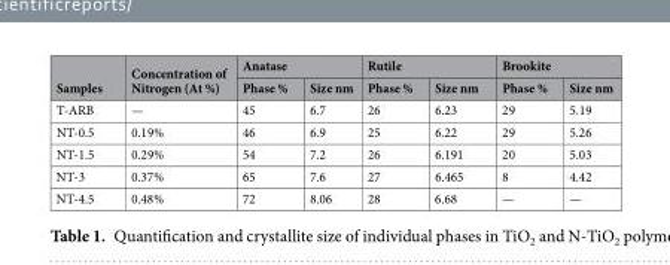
<table><thead><tr><td rowspan="2">Samples</td><td rowspan="2">Concentration of Nitrogen (At %)</td><td colspan="2">Anatase</td><td colspan="2">Rutile</td><td colspan="2">Brookite</td></tr><tr><td>Phase %</td><td>Size nm</td><td>Phase %</td><td>Size nm</td><td>Phase %</td><td>Size nm</td></tr></thead><tbody><tr><td>T-ARB</td><td>—</td><td>45</td><td>6.7</td><td>26</td><td>6.23</td><td>29</td><td>5.19</td></tr><tr><td>NT-0.5</td><td>0.19%</td><td>46</td><td>6.9</td><td>25</td><td>6.22</td><td>29</td><td>5.26</td></tr><tr><td>NT-1.5</td><td>0.29%</td><td>54</td><td>7.2</td><td>26</td><td>6.191</td><td>20</td><td>5.03</td></tr><tr><td>NT-3</td><td>0.37%</td><td>65</td><td>7.6</td><td>27</td><td>6.465</td><td>8</td><td>4.42</td></tr><tr><td>NT-4.5</td><td>0.48%</td><td>72</td><td>8.06</td><td>28</td><td>6.68</td><td>—</td><td>—</td></tr></tbody></table>